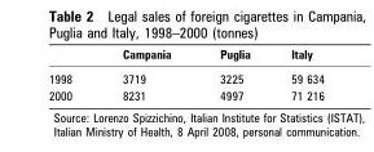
<table><thead><tr><td></td><td>Campania</td><td>Puglia</td><td>Italy</td></tr></thead><tbody><tr><td>1998</td><td>3719</td><td>3225</td><td>59 634</td></tr><tr><td>2000</td><td>8231</td><td>4997</td><td>71 216</td></tr></tbody></table>